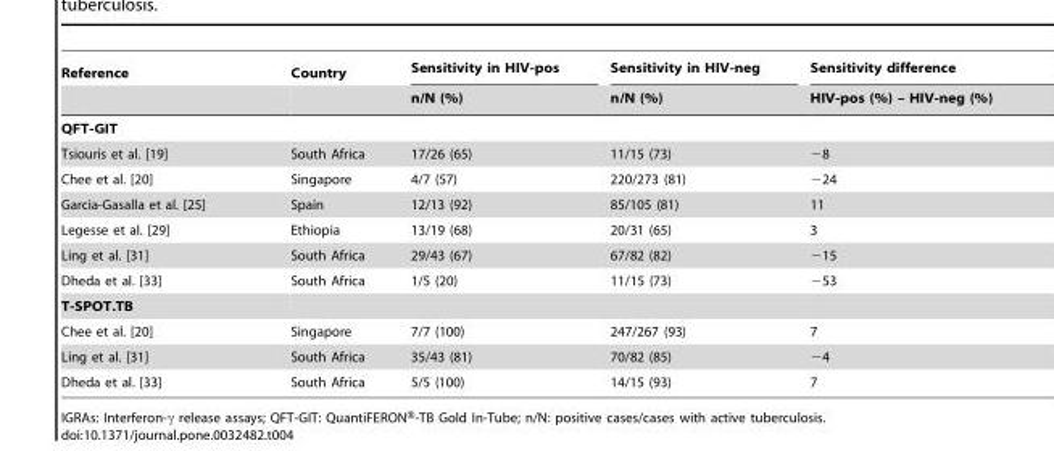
<table><thead><tr><td rowspan="2">Reference</td><td rowspan="2">Country</td><td rowspan="2">Sensitivity in HIV-pos n/N (%)</td><td rowspan="2">Sensitivity in HIV-neg n/N (%)</td><td rowspan="2">Sensitivity difference HIV-pos (%) – HIV-neg (%)</td></tr><tr></tr></thead><tbody><tr><td colspan="5">QFT-GIT</td></tr><tr><td>Tsiouris et al. [19]</td><td>South Africa</td><td>17/26 (65)</td><td>11/15 (73)</td><td>−8</td></tr><tr><td>Chee et al. [20]</td><td>Singapore</td><td>4/7 (57)</td><td>220/273 (81)</td><td>−24</td></tr><tr><td>Garcia-Gasalla et al. [25]</td><td>Spain</td><td>12/13 (92)</td><td>85/105 (81)</td><td>11</td></tr><tr><td>Legesse et al. [29]</td><td>Ethiopia</td><td>13/19 (68)</td><td>20/31 (65)</td><td>3</td></tr><tr><td>Ling et al. [31]</td><td>South Africa</td><td>29/43 (67)</td><td>67/82 (82)</td><td>−15</td></tr><tr><td>Dheda et al. [33]</td><td>South Africa</td><td>1/5 (20)</td><td>11/15 (73)</td><td>−53</td></tr><tr><td colspan="5">T-SPOT.TB</td></tr><tr><td>Chee et al. [20]</td><td>Singapore</td><td>7/7 (100)</td><td>247/267 (93)</td><td>7</td></tr><tr><td>Ling et al. [31]</td><td>South Africa</td><td>35/43 (81)</td><td>70/82 (85)</td><td>−4</td></tr><tr><td>Dheda et al. [33]</td><td>South Africa</td><td>5/5 (100)</td><td>14/15 (93)</td><td>7</td></tr></tbody></table>